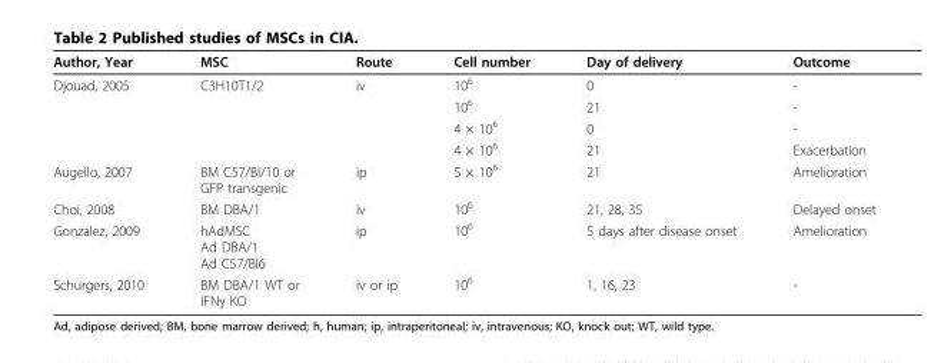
<table><thead><tr><td>Author, Year</td><td>MSC</td><td>Route</td><td>Cell number</td><td>Day of delivery</td><td>Outcome</td></tr></thead><tbody><tr><td rowspan="4">Djouad, 2005</td><td>C3H10T1/2</td><td>iv</td><td>10<sup>6</sup></td><td>0</td><td>-</td></tr><tr><td></td><td></td><td>10<sup>6</sup></td><td>21</td><td>-</td></tr><tr><td></td><td></td><td>4 × 10<sup>6</sup></td><td>0</td><td>-</td></tr><tr><td></td><td></td><td>4 × 10<sup>6</sup></td><td>21</td><td>Exacerbation</td></tr><tr><td>Augello, 2007</td><td>BM C57/Bl/10 or GFP transgenic</td><td>ip</td><td>5 × 10<sup>6</sup></td><td>21</td><td>Amelioration</td></tr><tr><td>Choi, 2008</td><td>BM DBA/1</td><td>iv</td><td>10<sup>6</sup></td><td>21, 28, 35</td><td>Delayed onset</td></tr><tr><td>Gonzalez, 2009</td><td>hAdMSC Ad DBA/1 Ad C57/Bl6</td><td>ip</td><td>10<sup>6</sup></td><td>5 days after disease onset</td><td>Amelioration</td></tr><tr><td>Schurgers, 2010</td><td>BM DBA/1 WT or IFNγ KO</td><td>iv or ip</td><td>10<sup>6</sup></td><td>1, 16, 23</td><td>-</td></tr></tbody></table>